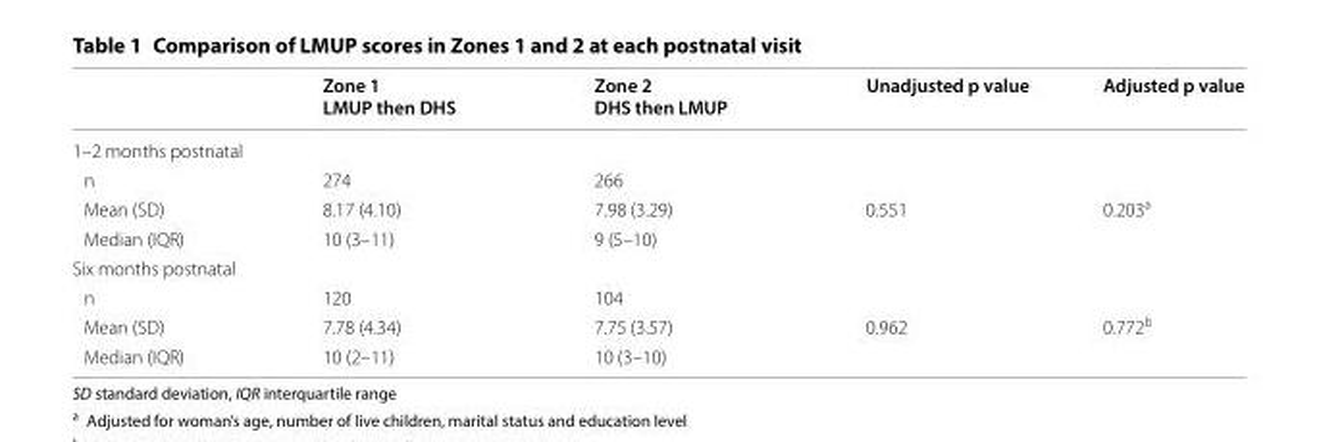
<table><thead><tr><td></td><td>Zone 1 LMUP then DHS</td><td>Zone 2 DHS then LMUP</td><td>Unadjusted p value</td><td>Adjusted p value</td></tr></thead><tbody><tr><td colspan="5">1–2 months postnatal</td></tr><tr><td>n</td><td>274</td><td>266</td><td></td><td></td></tr><tr><td>Mean (SD)</td><td>8.17 (4.10)</td><td>7.98 (3.29)</td><td>0.551</td><td>0.203<sup>a</sup></td></tr><tr><td>Median (IQR)</td><td>10 (3–11)</td><td>9 (5–10)</td><td></td><td></td></tr><tr><td colspan="5">Six months postnatal</td></tr><tr><td>n</td><td>120</td><td>104</td><td></td><td></td></tr><tr><td>Mean (SD)</td><td>7.78 (4.34)</td><td>7.75 (3.57)</td><td>0.962</td><td>0.772<sup>b</sup></td></tr><tr><td>Median (IQR)</td><td>10 (2–11)</td><td>10 (3–10)</td><td></td><td></td></tr></tbody></table>